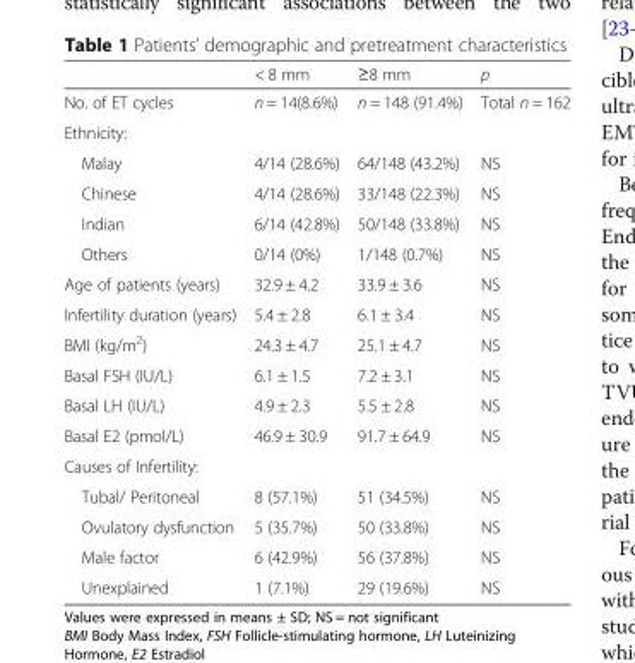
<table><thead><tr><td></td><td>&lt; 8 mm</td><td>≥8 mm</td><td>p</td></tr></thead><tbody><tr><td>No. of ET cycles</td><td>n = 14(8.6%)</td><td>n = 148 (91.4%)</td><td>Total n = 162</td></tr><tr><td colspan="4">Ethnicity:</td></tr><tr><td>Malay</td><td>4/14 (28.6%)</td><td>64/148 (43.2%)</td><td>NS</td></tr><tr><td>Chinese</td><td>4/14 (28.6%)</td><td>33/148 (22.3%)</td><td>NS</td></tr><tr><td>Indian</td><td>6/14 (42.8%)</td><td>50/148 (33.8%)</td><td>NS</td></tr><tr><td>Others</td><td>0/14 (0%)</td><td>1/148 (0.7%)</td><td>NS</td></tr><tr><td>Age of patients (years)</td><td>32.9 ± 4.2</td><td>33.9 ± 3.6</td><td>NS</td></tr><tr><td>Infertility duration (years)</td><td>5.4 ± 2.8</td><td>6.1 ± 3.4</td><td>NS</td></tr><tr><td>BMI (kg/m<sup>2</sup>)</td><td>24.3 ± 4.7</td><td>25.1 ± 4.7</td><td>NS</td></tr><tr><td>Basal FSH (IU/L)</td><td>6.1 ± 1.5</td><td>7.2 ± 3.1</td><td>NS</td></tr><tr><td>Basal LH (IU/L)</td><td>4.9 ± 2.3</td><td>5.5 ± 2.8</td><td>NS</td></tr><tr><td>Basal E2 (pmol/L)</td><td>46.9 ± 30.9</td><td>91.7 ± 64.9</td><td>NS</td></tr><tr><td colspan="4">Causes of Infertility:</td></tr><tr><td>Tubal/ Peritoneal</td><td>8 (57.1%)</td><td>51 (34.5%)</td><td>NS</td></tr><tr><td>Ovulatory dysfunction</td><td>5 (35.7%)</td><td>50 (33.8%)</td><td>NS</td></tr><tr><td>Male factor</td><td>6 (42.9%)</td><td>56 (37.8%)</td><td>NS</td></tr><tr><td>Unexplained</td><td>1 (7.1%)</td><td>29 (19.6%)</td><td>NS</td></tr></tbody></table>